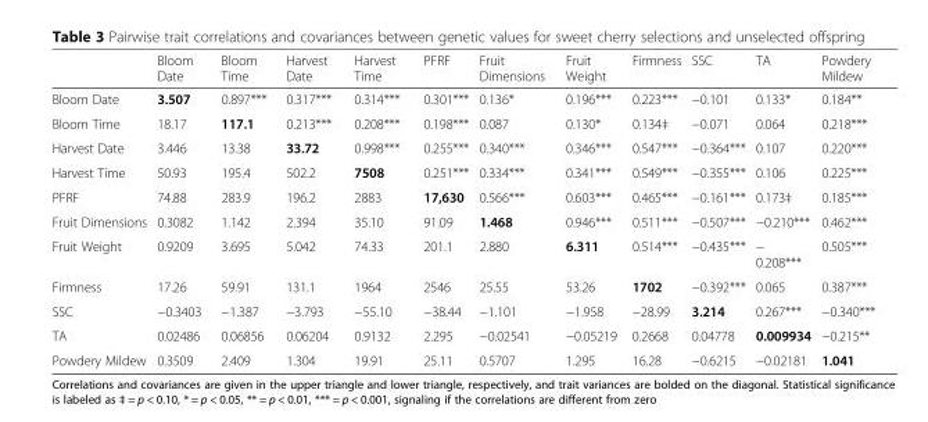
<table><thead><tr><td></td><td>Bloom Date</td><td>Bloom Time</td><td>Harvest Date</td><td>Harvest Time</td><td>PFRF</td><td>Fruit Dimensions</td><td>Fruit Weight</td><td>Firmness</td><td>SSC</td><td>TA</td><td>Powdery Mildew</td></tr></thead><tbody><tr><td>Bloom Date</td><td>3.507</td><td>0.897***</td><td>0.317***</td><td>0.314***</td><td>0.301***</td><td>0.136*</td><td>0.196***</td><td>0.223***</td><td>−0.101</td><td>0.133*</td><td>0.184**</td></tr><tr><td>Bloom Time</td><td>18.17</td><td>117.1</td><td>0.213***</td><td>0.208***</td><td>0.198***</td><td>0.087</td><td>0.130*</td><td>0.134‡</td><td>−0.071</td><td>0.064</td><td>0.218***</td></tr><tr><td>Harvest Date</td><td>3.446</td><td>13.38</td><td>33.72</td><td>0.998***</td><td>0.255***</td><td>0.340***</td><td>0.346***</td><td>0.547***</td><td>−0.364***</td><td>0.107</td><td>0.220***</td></tr><tr><td>Harvest Time</td><td>50.93</td><td>195.4</td><td>502.2</td><td>7508</td><td>0.251***</td><td>0.334***</td><td>0.341***</td><td>0.549***</td><td>−0.355***</td><td>0.106</td><td>0.225***</td></tr><tr><td>PFRF</td><td>74.88</td><td>283.9</td><td>196.2</td><td>2883</td><td>17,630</td><td>0.566***</td><td>0.603***</td><td>0.465***</td><td>−0.161***</td><td>0.173‡</td><td>0.185***</td></tr><tr><td>Fruit Dimensions</td><td>0.3082</td><td>1.142</td><td>2.394</td><td>35.10</td><td>91.09</td><td>1.468</td><td>0.946***</td><td>0.511***</td><td>−0.507***</td><td>−0.210***</td><td>0.462***</td></tr><tr><td>Fruit Weight</td><td>0.9209</td><td>3.695</td><td>5.042</td><td>74.33</td><td>201.1</td><td>2.880</td><td>6.311</td><td>0.514***</td><td>−0.435***</td><td>− 0.208***</td><td>0.505***</td></tr><tr><td>Firmness</td><td>17.26</td><td>59.91</td><td>131.1</td><td>1964</td><td>2546</td><td>25.55</td><td>53.26</td><td>1702</td><td>−0.392***</td><td>0.065</td><td>0.387***</td></tr><tr><td>SSC</td><td>−0.3403</td><td>−1.387</td><td>−3.793</td><td>−55.10</td><td>−38.44</td><td>−1.101</td><td>−1.958</td><td>−28.99</td><td>3.214</td><td>0.267***</td><td>−0.340***</td></tr><tr><td>TA</td><td>0.02486</td><td>0.06856</td><td>0.06204</td><td>0.9132</td><td>2.295</td><td>−0.02541</td><td>−0.05219</td><td>0.2668</td><td>0.04778</td><td>0.009934</td><td>−0.215**</td></tr><tr><td>Powdery Mildew</td><td>0.3509</td><td>2.409</td><td>1.304</td><td>19.91</td><td>25.11</td><td>0.5707</td><td>1.295</td><td>16.28</td><td>−0.6215</td><td>−0.02181</td><td>1.041</td></tr></tbody></table>